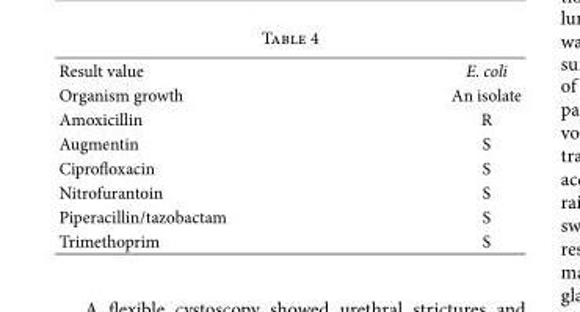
<table><tbody><tr><td>Result value</td><td>E. coli</td></tr><tr><td>Organism growth</td><td>An isolate</td></tr><tr><td>Amoxicillin</td><td>R</td></tr><tr><td>Augmentin</td><td>S</td></tr><tr><td>Ciprofloxacin</td><td>S</td></tr><tr><td>Nitrofurantoin</td><td>S</td></tr><tr><td>Piperacillin/tazobactam</td><td>S</td></tr><tr><td>Trimethoprim</td><td>S</td></tr></tbody></table>